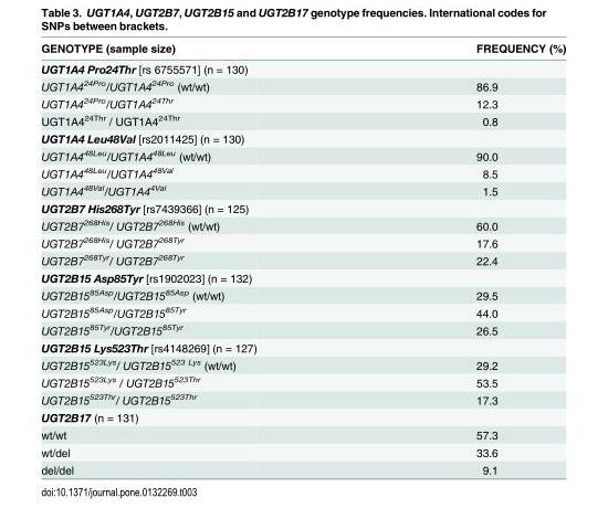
<table><thead><tr><td>GENOTYPE (sample size)</td><td>FREQUENCY (%)</td></tr></thead><tbody><tr><td colspan="2">UGT1A4 Pro24Thr [rs 6755571] (n = 130)</td></tr><tr><td>UGT1A4<sup>24Pro</sup>/UGT1A4<sup>24Pro</sup> (wt/wt)</td><td>86.9</td></tr><tr><td>UGT1A4<sup>24Pro</sup>/UGT1A4<sup>24Thr</sup></td><td>12.3</td></tr><tr><td>UGT1A4<sup>24Thr</sup> / UGT1A4<sup>24Thr</sup></td><td>0.8</td></tr><tr><td colspan="2">UGT1A4 Leu48Val [rs2011425] (n = 130)</td></tr><tr><td>UGT1A4<sup>48Leu</sup>/UGT1A4<sup>48Leu</sup> (wt/wt)</td><td>90.0</td></tr><tr><td>UGT1A4<sup>48Leu</sup>/UGT1A4<sup>48Val</sup></td><td>8.5</td></tr><tr><td>UGT1A4<sup>48Val</sup>/UGT1A4<sup>4Val</sup></td><td>1.5</td></tr><tr><td colspan="2">UGT2B7 His268Tyr [rs7439366] (n = 125)</td></tr><tr><td>UGT2B7<sup>268His</sup>/ UGT2B7<sup>268His</sup> (wt/wt)</td><td>60.0</td></tr><tr><td>UGT2B7<sup>268His</sup>/ UGT2B7<sup>268Tyr</sup></td><td>17.6</td></tr><tr><td>UGT2B7<sup>268Tyr</sup>/ UGT2B7<sup>268Tyr</sup></td><td>22.4</td></tr><tr><td colspan="2">UGT2B15 Asp85Tyr [rs1902023] (n = 132)</td></tr><tr><td>UGT2B15<sup>85Asp</sup>/UGT2B15<sup>85Asp</sup> (wt/wt)</td><td>29.5</td></tr><tr><td>UGT2B15<sup>85Asp</sup>/UGT2B15<sup>85Tyr</sup></td><td>44.0</td></tr><tr><td>UGT2B15<sup>85Tyr</sup>/UGT2B15<sup>85Tyr</sup></td><td>26.5</td></tr><tr><td colspan="2">UGT2B15 Lys523Thr [rs4148269] (n = 127)</td></tr><tr><td>UGT2B15<sup>523Lys</sup>/ UGT2B15<sup>523 Lys</sup> (wt/wt)</td><td>29.2</td></tr><tr><td>UGT2B15<sup>523Lys</sup> / UGT2B15<sup>523Thr</sup></td><td>53.5</td></tr><tr><td>UGT2B15<sup>523Thr</sup>/ UGT2B15<sup>523Thr</sup></td><td>17.3</td></tr><tr><td colspan="2">UGT2B17 (n = 131)</td></tr><tr><td>wt/wt</td><td>57.3</td></tr><tr><td>wt/del</td><td>33.6</td></tr><tr><td>del/del</td><td>9.1</td></tr></tbody></table>